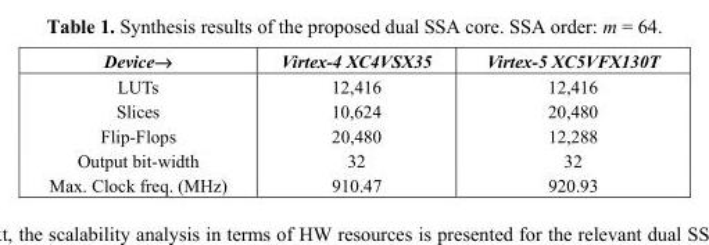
<table><thead><tr><td>Device→</td><td>Virtex-4 XC4VSX35</td><td>Virtex-5 XC5VFX130T</td></tr></thead><tbody><tr><td>LUTs</td><td>12,416</td><td>12,416</td></tr><tr><td>Slices</td><td>10,624</td><td>20,480</td></tr><tr><td>Flip-Flops</td><td>20,480</td><td>12,288</td></tr><tr><td>Output bit-width</td><td>32</td><td>32</td></tr><tr><td>Max. Clock freq. (MHz)</td><td>910.47</td><td>920.93</td></tr></tbody></table>